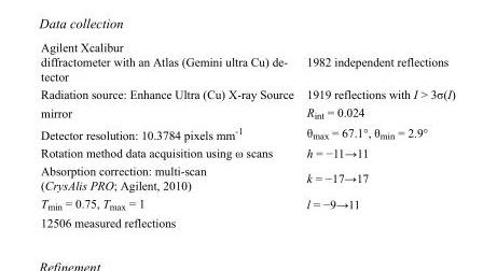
<table><tbody><tr><td>Agilent Xcalibur diffractometer with an Atlas (Gemini ultra Cu) de- tector</td><td>1982 independent reflections</td></tr><tr><td>Radiation source: Enhance Ultra (Cu) X-ray Source</td><td>1919 reflections with I &gt; 3σ(I)</td></tr><tr><td>mirror</td><td>R<sub>int</sub> = 0.024</td></tr><tr><td>Detector resolution: 10.3784 pixels mm<sup>-1</sup></td><td>θ<sub>max</sub> = 67.1°, θ<sub>min</sub> = 2.9°</td></tr><tr><td>Rotation method data acquisition using ω scans</td><td>h = −11→11</td></tr><tr><td>Absorption correction: multi-scan (CrysAlis PRO; Agilent, 2010)</td><td>k = −17→17</td></tr><tr><td>T<sub>min</sub> = 0.75, T<sub>max</sub> = 1</td><td>l = −9→11</td></tr><tr><td>12506 measured reflections</td><td></td></tr></tbody></table>